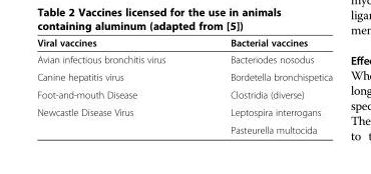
<table><thead><tr><td>Viral vaccines</td><td>Bacterial vaccines</td></tr></thead><tbody><tr><td>Avian infectious bronchitis virus</td><td>Bacteriodes nosodus</td></tr><tr><td>Canine hepatitis virus</td><td>Bordetella bronchispetica</td></tr><tr><td>Foot-and-mouth Disease</td><td>Clostridia (diverse)</td></tr><tr><td rowspan="2">Newcastle Disease Virus</td><td>Leptospira interrogans</td></tr><tr><td>Pasteurella multocida</td></tr></tbody></table>